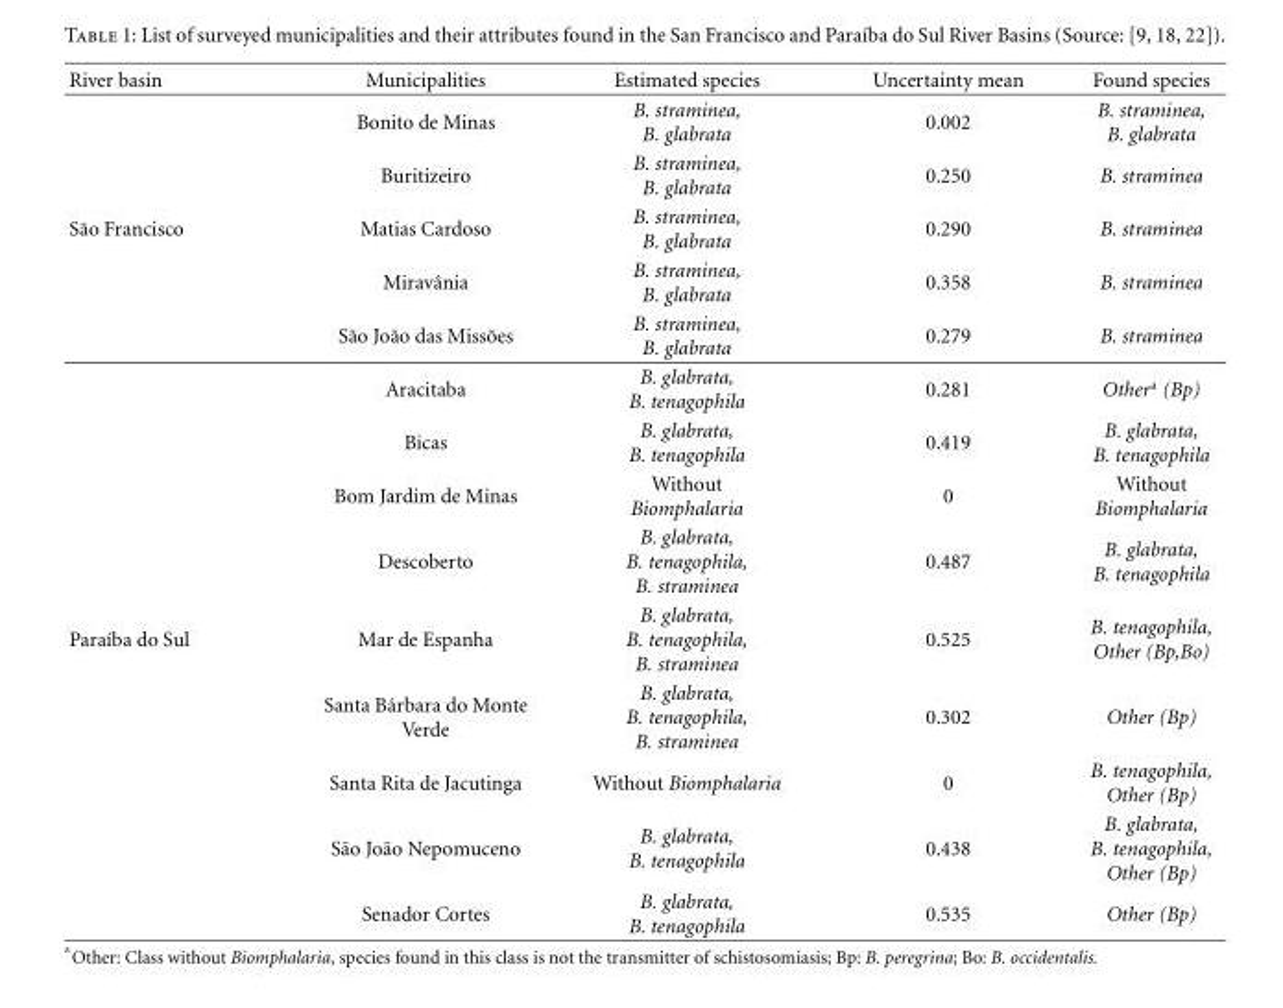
<table><thead><tr><td>River basin</td><td>Municipalities</td><td>Estimated species</td><td>Uncertainty mean</td><td>Found species</td></tr></thead><tbody><tr><td></td><td>Bonito de Minas</td><td>B. straminea, B. glabrata</td><td>0.002</td><td>B. straminea, B. glabrata</td></tr><tr><td></td><td>Buritizeiro</td><td>B. straminea, B. glabrata</td><td>0.250</td><td>B. straminea</td></tr><tr><td rowspan="7">S˜ao Francisco</td><td>Matias Cardoso</td><td>B. straminea, B. glabrata</td><td>0.290</td><td>B. straminea</td></tr><tr><td>Miravˆania</td><td>B. straminea, B. glabrata</td><td>0.358</td><td>B. straminea</td></tr><tr><td>S˜ao Jo˜ao das Miss˜oes</td><td>B. straminea, B. glabrata</td><td>0.279</td><td>B. straminea</td></tr><tr><td>Aracitaba</td><td>B. glabrata, B. tenagophila</td><td>0.281</td><td>Other<sup>a</sup> (Bp)</td></tr><tr><td>Bicas</td><td>B. glabrata, B. tenagophila</td><td>0.419</td><td>B. glabrata, B. tenagophila</td></tr><tr><td>Bom Jardim de Minas</td><td>Without Biomphalaria</td><td>0</td><td>Without Biomphalaria</td></tr><tr><td>Descoberto</td><td>B. glabrata, B. tenagophila, B. straminea</td><td>0.487</td><td>B. glabrata, B. tenagophila</td></tr><tr><td rowspan="5">Para´ıba do Sul</td><td>Mar de Espanha</td><td>B. glabrata, B. tenagophila, B. straminea</td><td>0.525</td><td>B. tenagophila, Other (Bp,Bo)</td></tr><tr><td>Santa B´arbara do Monte Verde</td><td>B. glabrata, B. tenagophila, B. straminea</td><td>0.302</td><td>Other (Bp)</td></tr><tr><td>Santa Rita de Jacutinga</td><td>Without Biomphalaria</td><td>0</td><td>B. tenagophila, Other (Bp)</td></tr><tr><td>S˜ao Jo˜ao Nepomuceno</td><td>B. glabrata, B. tenagophila</td><td>0.438</td><td>B. glabrata, B. tenagophila, Other (Bp)</td></tr><tr><td>Senador Cortes</td><td>B. glabrata, B. tenagophila</td><td>0.535</td><td>Other (Bp)</td></tr></tbody></table>